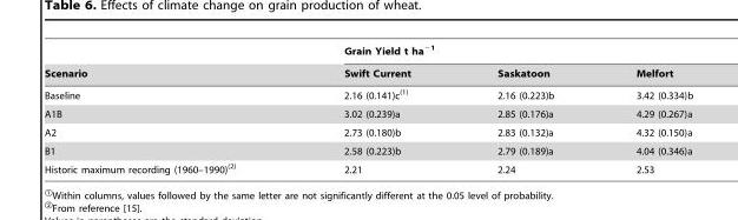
<table><thead><tr><td rowspan="2">Scenario</td><td colspan="3">Grain Yield t ha<sup>−1</sup></td></tr><tr><td>Swift Current</td><td>Saskatoon</td><td>Melfort</td></tr></thead><tbody><tr><td>Baseline</td><td>2.16 (0.141)c(1)</td><td>2.16 (0.223)b</td><td>3.42 (0.334)b</td></tr><tr><td>A1B</td><td>3.02 (0.239)a</td><td>2.85 (0.176)a</td><td>4.29 (0.267)a</td></tr><tr><td>A2</td><td>2.73 (0.180)b</td><td>2.83 (0.132)a</td><td>4.32 (0.150)a</td></tr><tr><td>B1</td><td>2.58 (0.223)b</td><td>2.79 (0.189)a</td><td>4.04 (0.346)a</td></tr><tr><td>Historic maximum recording (1960–1990)(2)</td><td>2.21</td><td>2.24</td><td>2.53</td></tr></tbody></table>